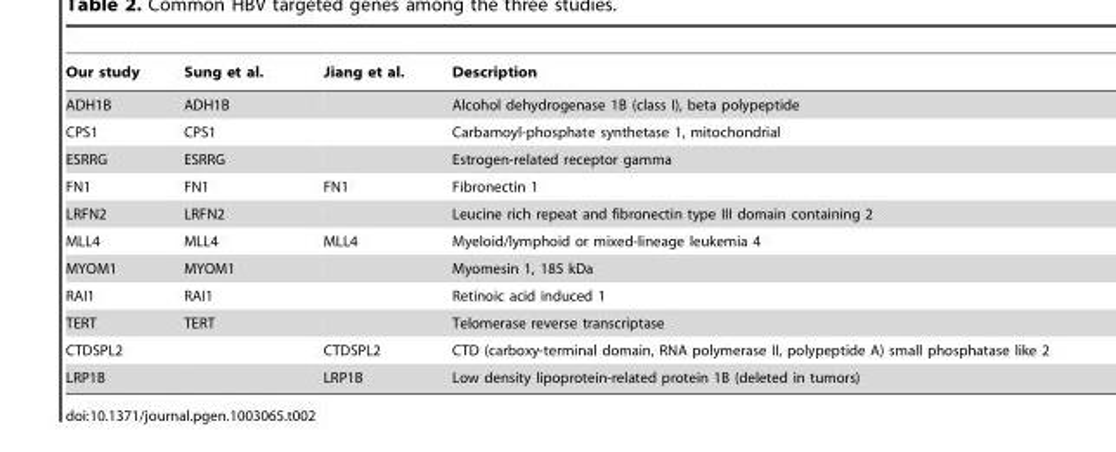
<table><thead><tr><td>Our study</td><td>Sung et al.</td><td>Jiang et al.</td><td>Description</td></tr></thead><tbody><tr><td>ADH1B</td><td>ADH1B</td><td></td><td>Alcohol dehydrogenase 1B (class I), beta polypeptide</td></tr><tr><td>CPS1</td><td>CPS1</td><td></td><td>Carbamoyl-phosphate synthetase 1, mitochondrial</td></tr><tr><td>ESRRG</td><td>ESRRG</td><td></td><td>Estrogen-related receptor gamma</td></tr><tr><td>FN1</td><td>FN1</td><td>FN1</td><td>Fibronectin 1</td></tr><tr><td>LRFN2</td><td>LRFN2</td><td></td><td>Leucine rich repeat and fibronectin type III domain containing 2</td></tr><tr><td>MLL4</td><td>MLL4</td><td>MLL4</td><td>Myeloid/lymphoid or mixed-lineage leukemia 4</td></tr><tr><td>MYOM1</td><td>MYOM1</td><td></td><td>Myomesin 1, 185 kDa</td></tr><tr><td>RAI1</td><td>RAI1</td><td></td><td>Retinoic acid induced 1</td></tr><tr><td>TERT</td><td>TERT</td><td></td><td>Telomerase reverse transcriptase</td></tr><tr><td>CTDSPL2</td><td></td><td>CTDSPL2</td><td>CTD (carboxy-terminal domain, RNA polymerase II, polypeptide A) small phosphatase like 2</td></tr><tr><td>LRP1B</td><td></td><td>LRP1B</td><td>Low density lipoprotein-related protein 1B (deleted in tumors)</td></tr></tbody></table>